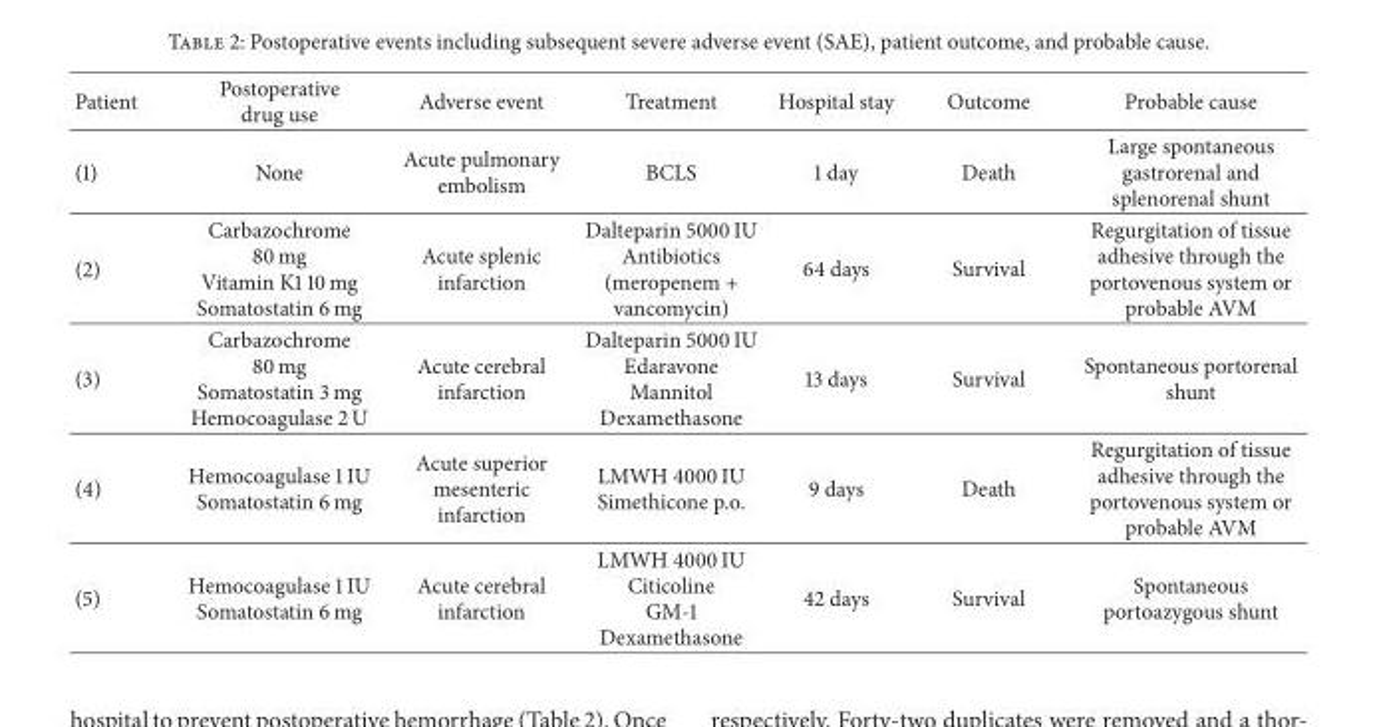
<table><thead><tr><td>Patient</td><td>Postoperative drug use</td><td>Adverse event</td><td>Treatment</td><td>Hospital stay</td><td>Outcome</td><td>Probable cause</td></tr></thead><tbody><tr><td>(1)</td><td>None</td><td>Acute pulmonary embolism</td><td>BCLS</td><td>1 day</td><td>Death</td><td>Large spontaneous gastrorenal and splenorenal shunt</td></tr><tr><td>(2)</td><td>Carbazochrome 80 mg Vitamin K1 10 mg Somatostatin 6 mg</td><td>Acute splenic infarction</td><td>Dalteparin 5000 IU Antibiotics (meropenem + vancomycin)</td><td>64 days</td><td>Survival</td><td>Regurgitation of tissue adhesive through the portovenous system or probable AVM</td></tr><tr><td>(3)</td><td>Carbazochrome 80 mg Somatostatin 3 mg Hemocoagulase 2 U</td><td>Acute cerebral infarction</td><td>Dalteparin 5000 IU Edaravone Mannitol Dexamethasone</td><td>13 days</td><td>Survival</td><td>Spontaneous portorenal shunt</td></tr><tr><td>(4)</td><td>Hemocoagulase 1 IU Somatostatin 6 mg</td><td>Acute superior mesenteric infarction</td><td>LMWH 4000 IU Simethicone p.o.</td><td>9 days</td><td>Death</td><td>Regurgitation of tissue adhesive through the portovenous system or probable AVM</td></tr><tr><td>(5)</td><td>Hemocoagulase 1 IU Somatostatin 6 mg</td><td>Acute cerebral infarction</td><td>LMWH 4000 IU Citicoline GM-1 Dexamethasone</td><td>42 days</td><td>Survival</td><td>Spontaneous portoazygous shunt</td></tr></tbody></table>